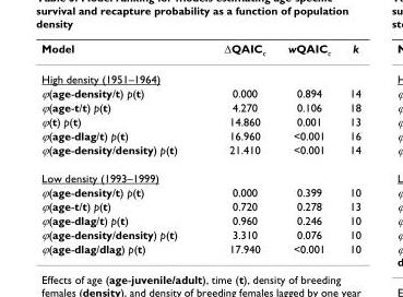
<table><thead><tr><td>Model</td><td>ΔQAIC<sub>c</sub></td><td>wQAIC<sub>c</sub></td><td>k</td></tr></thead><tbody><tr><td colspan="4">High density (1951–1964)</td></tr><tr><td>ϕ(age-density/t) p(t)</td><td>0.000</td><td>0.894</td><td>14</td></tr><tr><td>ϕ(age-t/t) p(t)</td><td>4.270</td><td>0.106</td><td>18</td></tr><tr><td>ϕ(t) p(t)</td><td>14.860</td><td>0.001</td><td>13</td></tr><tr><td>ϕ(age-dlag/t) p(t)</td><td>16.960</td><td>&lt;0.001</td><td>16</td></tr><tr><td>ϕ(age-density/density) p(t)</td><td>21.410</td><td>&lt;0.001</td><td>14</td></tr><tr><td colspan="4">Low density (1993–1999)</td></tr><tr><td>ϕ(age-density/t) p(t)</td><td>0.000</td><td>0.399</td><td>10</td></tr><tr><td>ϕ(age-t/t) p(t)</td><td>0.720</td><td>0.278</td><td>13</td></tr><tr><td>ϕ(age-dlag/t) p(t)</td><td>0.960</td><td>0.246</td><td>10</td></tr><tr><td>ϕ(age-density/density) p(t)</td><td>3.310</td><td>0.076</td><td>10</td></tr><tr><td>ϕ(age-dlag/dlag) p(t)</td><td>17.940</td><td>&lt;0.001</td><td>10</td></tr></tbody></table>